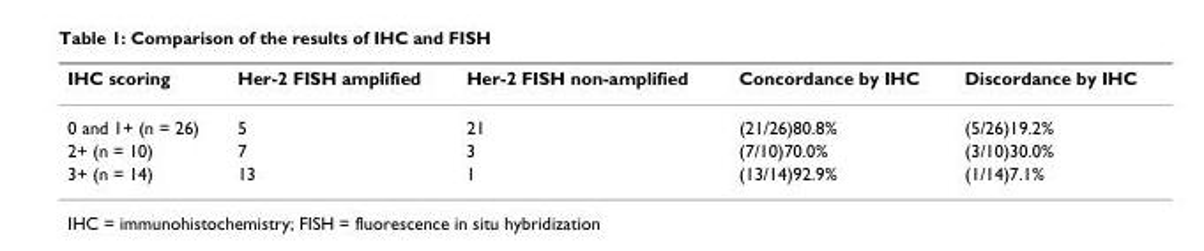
<table><thead><tr><td>IHC scoring</td><td>Her-2 FISH amplified</td><td>Her-2 FISH non-amplified</td><td>Concordance by IHC</td><td>Discordance by IHC</td></tr></thead><tbody><tr><td>0 and 1+ (n = 26)</td><td>5</td><td>21</td><td>(21/26)80.8%</td><td>(5/26)19.2%</td></tr><tr><td>2+ (n = 10)</td><td>7</td><td>3</td><td>(7/10)70.0%</td><td>(3/10)30.0%</td></tr><tr><td>3+ (n = 14)</td><td>13</td><td>1</td><td>(13/14)92.9%</td><td>(1/14)7.1%</td></tr></tbody></table>